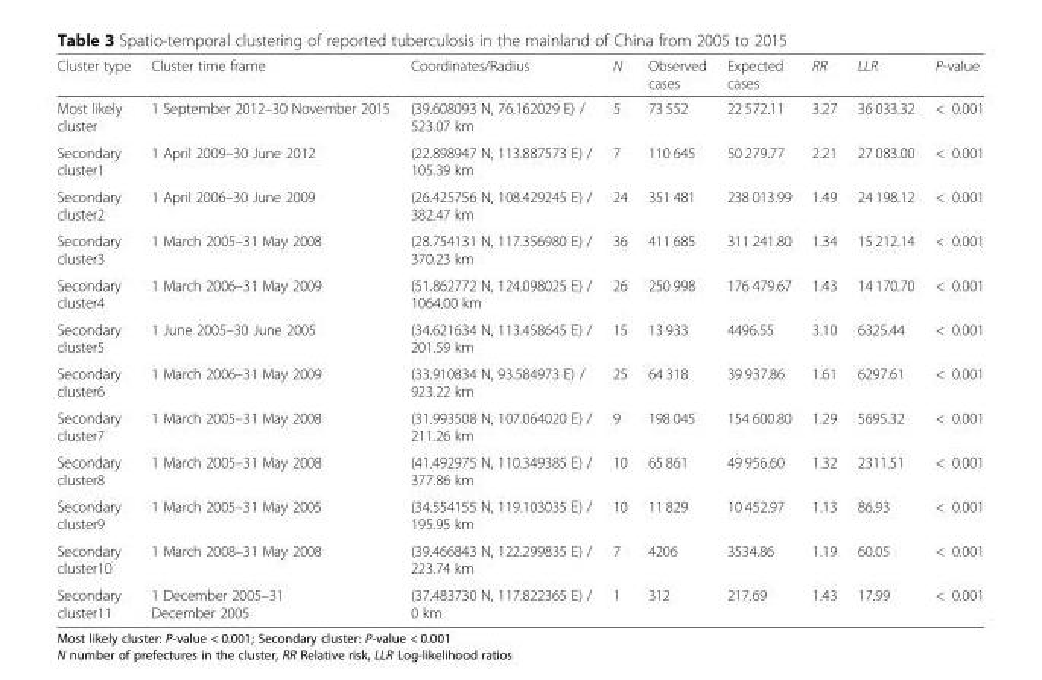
<table><thead><tr><td>Cluster type</td><td>Cluster time frame</td><td>Coordinates/Radius</td><td>N</td><td>Observed cases</td><td>Expected cases</td><td>RR</td><td>LLR</td><td>P-value</td></tr></thead><tbody><tr><td>Most likely cluster</td><td>1 September 2012–30 November 2015</td><td>(39.608093 N, 76.162029 E) / 523.07 km</td><td>5</td><td>73 552</td><td>22 572.11</td><td>3.27</td><td>36 033.32</td><td>&lt; 0.001</td></tr><tr><td>Secondary cluster1</td><td>1 April 2009–30 June 2012</td><td>(22.898947 N, 113.887573 E) / 105.39 km</td><td>7</td><td>110 645</td><td>50 279.77</td><td>2.21</td><td>27 083.00</td><td>&lt; 0.001</td></tr><tr><td>Secondary cluster2</td><td>1 April 2006–30 June 2009</td><td>(26.425756 N, 108.429245 E) / 382.47 km</td><td>24</td><td>351 481</td><td>238 013.99</td><td>1.49</td><td>24 198.12</td><td>&lt; 0.001</td></tr><tr><td>Secondary cluster3</td><td>1 March 2005–31 May 2008</td><td>(28.754131 N, 117.356980 E) / 370.23 km</td><td>36</td><td>411 685</td><td>311 241.80</td><td>1.34</td><td>15 212.14</td><td>&lt; 0.001</td></tr><tr><td>Secondary cluster4</td><td>1 March 2006–31 May 2009</td><td>(51.862772 N, 124.098025 E) / 1064.00 km</td><td>26</td><td>250 998</td><td>176 479.67</td><td>1.43</td><td>14 170.70</td><td>&lt; 0.001</td></tr><tr><td>Secondary cluster5</td><td>1 June 2005–30 June 2005</td><td>(34.621634 N, 113.458645 E) / 201.59 km</td><td>15</td><td>13 933</td><td>4496.55</td><td>3.10</td><td>6325.44</td><td>&lt; 0.001</td></tr><tr><td>Secondary cluster6</td><td>1 March 2006–31 May 2009</td><td>(33.910834 N, 93.584973 E) / 923.22 km</td><td>25</td><td>64 318</td><td>39 937.86</td><td>1.61</td><td>6297.61</td><td>&lt; 0.001</td></tr><tr><td>Secondary cluster7</td><td>1 March 2005–31 May 2008</td><td>(31.993508 N, 107.064020 E) / 211.26 km</td><td>9</td><td>198 045</td><td>154 600.80</td><td>1.29</td><td>5695.32</td><td>&lt; 0.001</td></tr><tr><td>Secondary cluster8</td><td>1 March 2005–31 May 2008</td><td>(41.492975 N, 110.349385 E) / 377.86 km</td><td>10</td><td>65 861</td><td>49 956.60</td><td>1.32</td><td>2311.51</td><td>&lt; 0.001</td></tr><tr><td>Secondary cluster9</td><td>1 March 2005–31 May 2005</td><td>(34.554155 N, 119.103035 E) / 195.95 km</td><td>10</td><td>11 829</td><td>10 452.97</td><td>1.13</td><td>86.93</td><td>&lt; 0.001</td></tr><tr><td>Secondary cluster10</td><td>1 March 2008–31 May 2008</td><td>(39.466843 N, 122.299835 E) / 223.74 km</td><td>7</td><td>4206</td><td>3534.86</td><td>1.19</td><td>60.05</td><td>&lt; 0.001</td></tr><tr><td>Secondary cluster11</td><td>1 December 2005–31 December 2005</td><td>(37.483730 N, 117.822365 E) / 0 km</td><td>1</td><td>312</td><td>217.69</td><td>1.43</td><td>17.99</td><td>&lt; 0.001</td></tr></tbody></table>